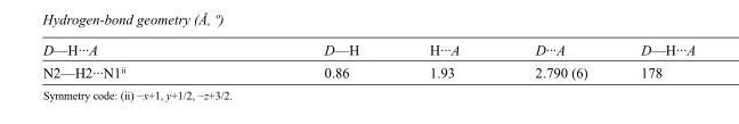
<table><tbody><tr><td>D—H···A</td><td>D—H</td><td>H···A</td><td>D···A</td><td>D—H···A</td></tr><tr><td>N2—H2···N1<sup>ii</sup></td><td>0.86</td><td>1.93</td><td>2.790 (6)</td><td>178</td></tr></tbody></table>